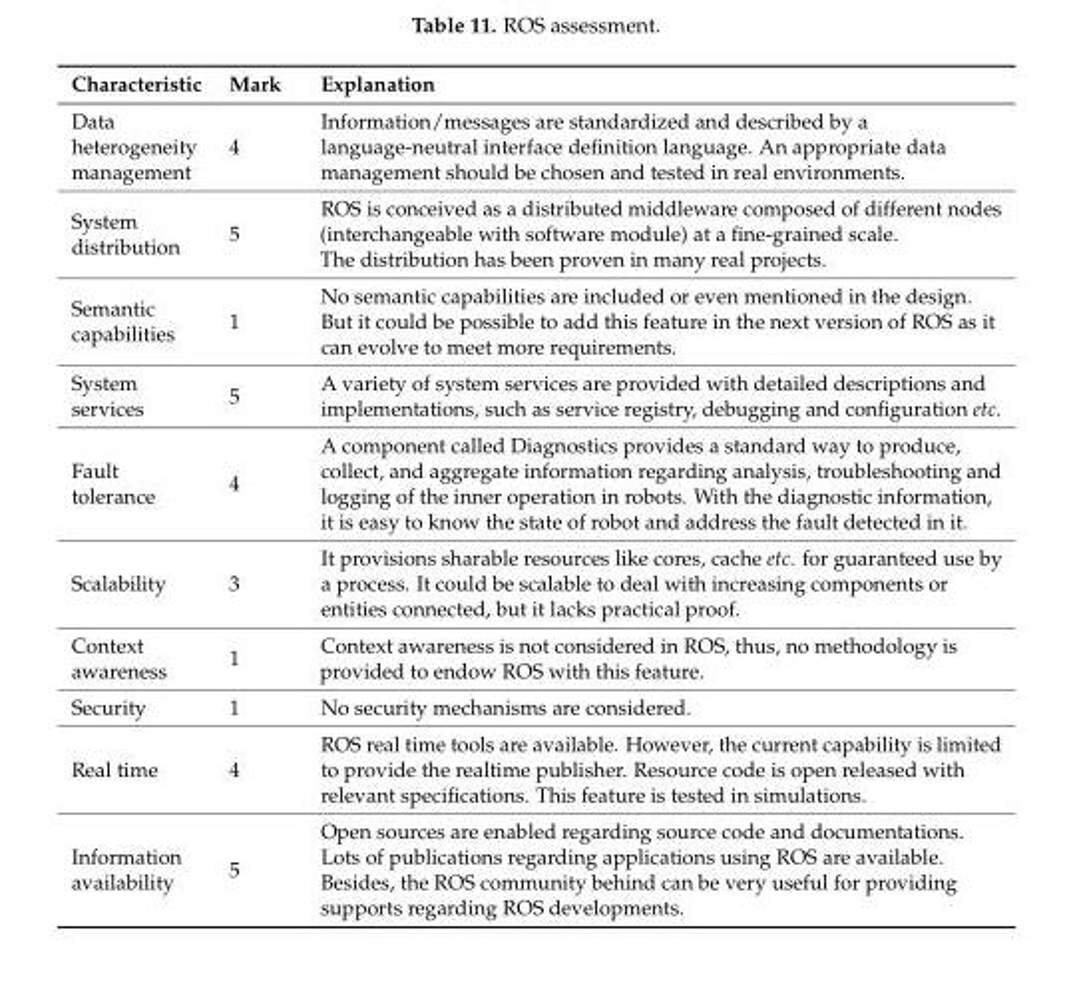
<table><thead><tr><td>Characteristic</td><td>Mark</td><td>Explanation</td></tr></thead><tbody><tr><td>Data heterogeneity management</td><td>4</td><td>Information/messages are standardized and described by a language-neutral interface definition language. An appropriate data management should be chosen and tested in real environments.</td></tr><tr><td>System distribution</td><td>5</td><td>ROS is conceived as a distributed middleware composed of different nodes (interchangeable with software module) at a fine-grained scale. The distribution has been proven in many real projects.</td></tr><tr><td>Semantic capabilities</td><td>1</td><td>No semantic capabilities are included or even mentioned in the design. But it could be possible to add this feature in the next version of ROS as it can evolve to meet more requirements.</td></tr><tr><td>System services</td><td>5</td><td>A variety of system services are provided with detailed descriptions and implementations, such as service registry, debugging and configuration etc.</td></tr><tr><td>Fault tolerance</td><td>4</td><td>A component called Diagnostics provides a standard way to produce, collect, and aggregate information regarding analysis, troubleshooting and logging of the inner operation in robots. With the diagnostic information, it is easy to know the state of robot and address the fault detected in it.</td></tr><tr><td>Scalability</td><td>3</td><td>It provisions sharable resources like cores, cache etc. for guaranteed use by a process. It could be scalable to deal with increasing components or entities connected, but it lacks practical proof.</td></tr><tr><td>Context awareness</td><td>1</td><td>Context awareness is not considered in ROS, thus, no methodology is provided to endow ROS with this feature.</td></tr><tr><td>Security</td><td>1</td><td>No security mechanisms are considered.</td></tr><tr><td>Real time</td><td>4</td><td>ROS real time tools are available. However, the current capability is limited to provide the realtime publisher. Resource code is open released with relevant specifications. This feature is tested in simulations.</td></tr><tr><td>Information availability</td><td>5</td><td>Open sources are enabled regarding source code and documentations. Lots of publications regarding applications using ROS are available. Besides, the ROS community behind can be very useful for providing supports regarding ROS developments.</td></tr></tbody></table>